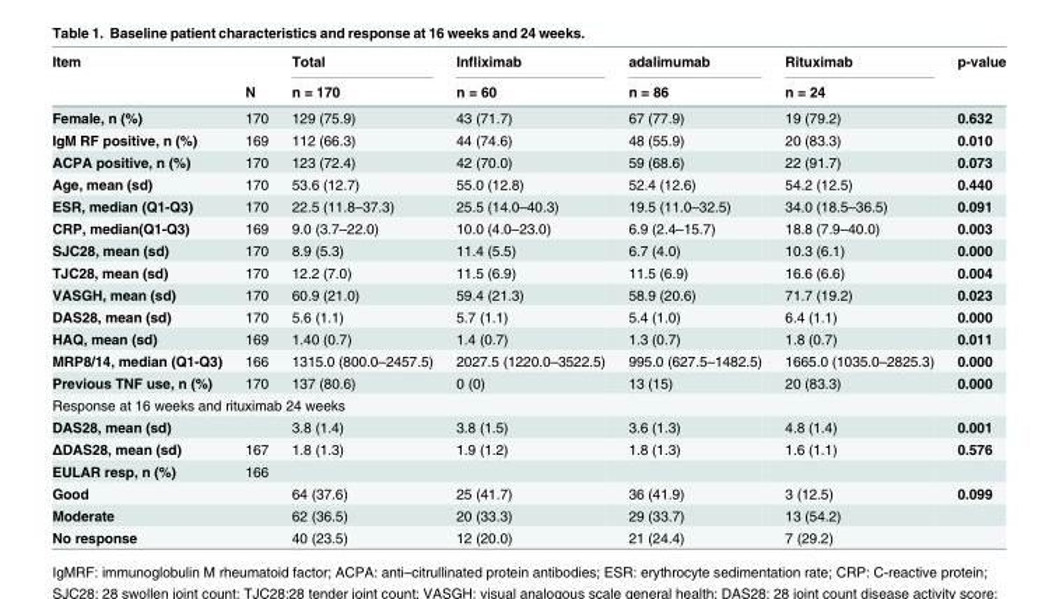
<table><thead><tr><td rowspan="2">Item</td><td rowspan="2">N</td><td rowspan="2">Total n = 170</td><td rowspan="2">Infliximab n = 60</td><td rowspan="2">adalimumab n = 86</td><td rowspan="2">Rituximab n = 24</td><td rowspan="2">p-value</td></tr><tr></tr></thead><tbody><tr><td>Female, n (%)</td><td>170</td><td>129 (75.9)</td><td>43 (71.7)</td><td>67 (77.9)</td><td>19 (79.2)</td><td>0.632</td></tr><tr><td>IgM RF positive, n (%)</td><td>169</td><td>112 (66.3)</td><td>44 (74.6)</td><td>48 (55.9)</td><td>20 (83.3)</td><td>0.010</td></tr><tr><td>ACPA positive, n (%)</td><td>170</td><td>123 (72.4)</td><td>42 (70.0)</td><td>59 (68.6)</td><td>22 (91.7)</td><td>0.073</td></tr><tr><td>Age, mean (sd)</td><td>170</td><td>53.6 (12.7)</td><td>55.0 (12.8)</td><td>52.4 (12.6)</td><td>54.2 (12.5)</td><td>0.440</td></tr><tr><td>ESR, median (Q1-Q3)</td><td>170</td><td>22.5 (11.8–37.3)</td><td>25.5 (14.0–40.3)</td><td>19.5 (11.0–32.5)</td><td>34.0 (18.5–36.5)</td><td>0.091</td></tr><tr><td>CRP, median(Q1-Q3)</td><td>169</td><td>9.0 (3.7–22.0)</td><td>10.0 (4.0–23.0)</td><td>6.9 (2.4–15.7)</td><td>18.8 (7.9–40.0)</td><td>0.003</td></tr><tr><td>SJC28, mean (sd)</td><td>170</td><td>8.9 (5.3)</td><td>11.4 (5.5)</td><td>6.7 (4.0)</td><td>10.3 (6.1)</td><td>0.000</td></tr><tr><td>TJC28, mean (sd)</td><td>170</td><td>12.2 (7.0)</td><td>11.5 (6.9)</td><td>11.5 (6.9)</td><td>16.6 (6.6)</td><td>0.004</td></tr><tr><td>VASGH, mean (sd)</td><td>170</td><td>60.9 (21.0)</td><td>59.4 (21.3)</td><td>58.9 (20.6)</td><td>71.7 (19.2)</td><td>0.023</td></tr><tr><td>DAS28, mean (sd)</td><td>170</td><td>5.6 (1.1)</td><td>5.7 (1.1)</td><td>5.4 (1.0)</td><td>6.4 (1.1)</td><td>0.000</td></tr><tr><td>HAQ, mean (sd)</td><td>169</td><td>1.40 (0.7)</td><td>1.4 (0.7)</td><td>1.3 (0.7)</td><td>1.8 (0.7)</td><td>0.011</td></tr><tr><td>MRP8/14, median (Q1-Q3)</td><td>166</td><td>1315.0 (800.0–2457.5)</td><td>2027.5 (1220.0–3522.5)</td><td>995.0 (627.5–1482.5)</td><td>1665.0 (1035.0–2825.3)</td><td>0.000</td></tr><tr><td>Previous TNF use, n (%)</td><td>170</td><td>137 (80.6)</td><td>0 (0)</td><td>13 (15)</td><td>20 (83.3)</td><td>0.000</td></tr><tr><td colspan="7">Response at 16 weeks and rituximab 24 weeks</td></tr><tr><td>DAS28, mean (sd)</td><td></td><td>3.8 (1.4)</td><td>3.8 (1.5)</td><td>3.6 (1.3)</td><td>4.8 (1.4)</td><td>0.001</td></tr><tr><td>ΔDAS28, mean (sd)</td><td>167</td><td>1.8 (1.3)</td><td>1.9 (1.2)</td><td>1.8 (1.3)</td><td>1.6 (1.1)</td><td>0.576</td></tr><tr><td>EULAR resp, n (%)</td><td>166</td><td></td><td></td><td></td><td></td><td></td></tr><tr><td>Good</td><td></td><td>64 (37.6)</td><td>25 (41.7)</td><td>36 (41.9)</td><td>3 (12.5)</td><td>0.099</td></tr><tr><td>Moderate</td><td></td><td>62 (36.5)</td><td>20 (33.3)</td><td>29 (33.7)</td><td>13 (54.2)</td><td></td></tr><tr><td>No response</td><td></td><td>40 (23.5)</td><td>12 (20.0)</td><td>21 (24.4)</td><td>7 (29.2)</td><td></td></tr></tbody></table>